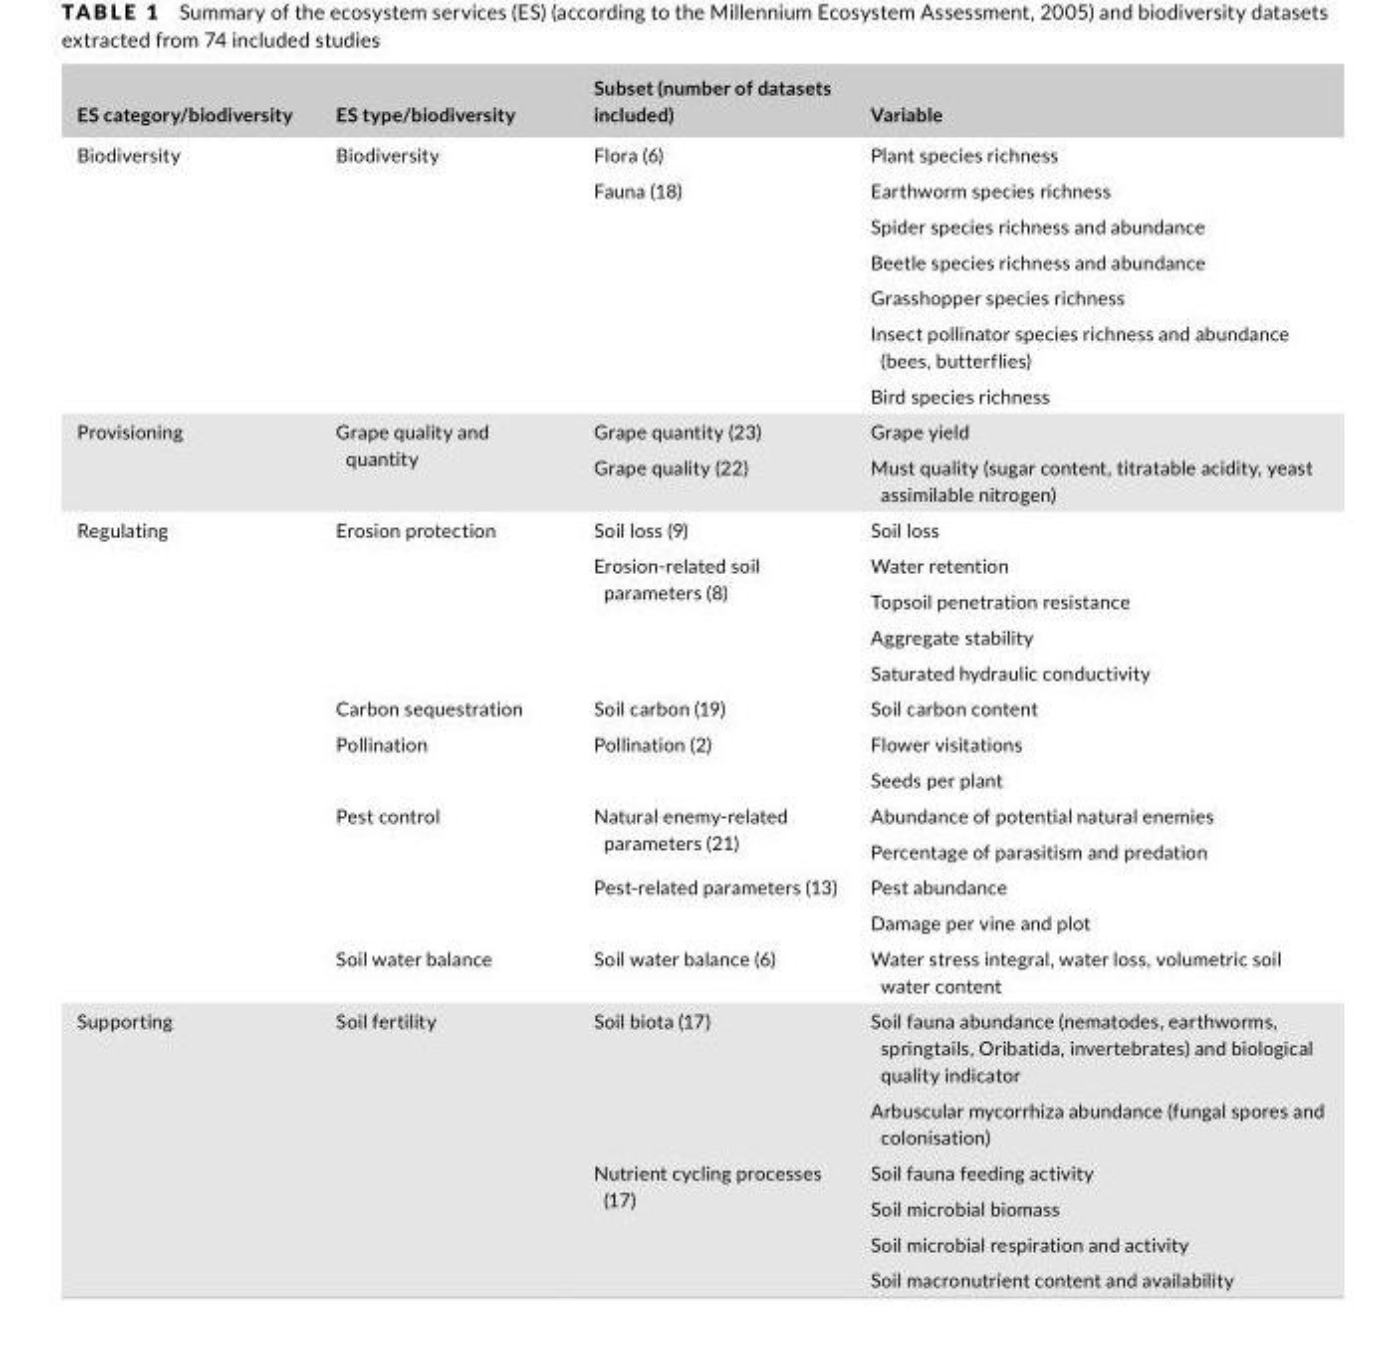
<table><thead><tr><td>ES category/biodiversity</td><td>ES type/biodiversity</td><td>Subset (number of datasets included)</td><td>Variable</td></tr></thead><tbody><tr><td rowspan="7">Biodiversity</td><td rowspan="7">Biodiversity</td><td>Flora (6)</td><td>Plant species richness</td></tr><tr><td rowspan="6">Fauna (18)</td><td>Earthworm species richness</td></tr><tr><td>Spider species richness and abundance</td></tr><tr><td>Beetle species richness and abundance</td></tr><tr><td>Grasshopper species richness</td></tr><tr><td>Insect pollinator species richness and abundance (bees, butterflies)</td></tr><tr><td>Bird species richness</td></tr><tr><td rowspan="2">Provisioning</td><td rowspan="2">Grape quality and quantity</td><td>Grape quantity (23)</td><td>Grape yield</td></tr><tr><td>Grape quality (22)</td><td>Must quality (sugar content, titratable acidity, yeast assimilable nitrogen)</td></tr><tr><td rowspan="13">Regulating</td><td rowspan="5">Erosion protection</td><td>Soil loss (9)</td><td>Soil loss</td></tr><tr><td rowspan="4">Erosion- related soil parameters (8)</td><td>Water retention</td></tr><tr><td>Topsoil penetration resistance</td></tr><tr><td>Aggregate stability</td></tr><tr><td>Saturated hydraulic conductivity</td></tr><tr><td>Carbon sequestration</td><td>Soil carbon (19)</td><td>Soil carbon content</td></tr><tr><td rowspan="2">Pollination</td><td rowspan="2">Pollination (2)</td><td>Flower visitations</td></tr><tr><td>Seeds per plant</td></tr><tr><td rowspan="4">Pest control</td><td rowspan="2">Natural enemy- related parameters (21)</td><td>Abundance of potential natural enemies</td></tr><tr><td>Percentage of parasitism and predation</td></tr><tr><td rowspan="2">Pest- related parameters (13)</td><td>Pest abundance</td></tr><tr><td>Damage per vine and plot</td></tr><tr><td>Soil water balance</td><td>Soil water balance (6)</td><td>Water stress integral, water loss, volumetric soil water content</td></tr><tr><td rowspan="6">Supporting</td><td rowspan="6">Soil fertility</td><td rowspan="2">Soil biota (17)</td><td>Soil fauna abundance (nematodes, earthworms, springtails, Oribatida, invertebrates) and biological quality indicator</td></tr><tr><td>Arbuscular mycorrhiza abundance (fungal spores and colonisation)</td></tr><tr><td rowspan="4">Nutrient cycling processes (17)</td><td>Soil fauna feeding activity</td></tr><tr><td>Soil microbial biomass</td></tr><tr><td>Soil microbial respiration and activity</td></tr><tr><td>Soil macronutrient content and availability</td></tr></tbody></table>